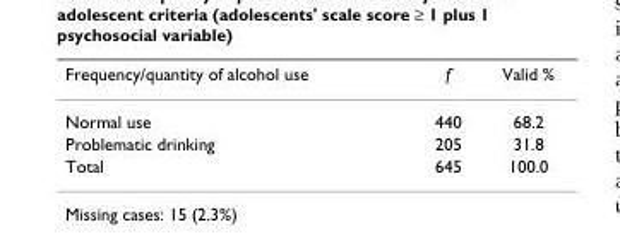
<table><thead><tr><td>Frequency/quantity of alcohol use</td><td>f</td><td>Valid %</td></tr></thead><tbody><tr><td>Normal use</td><td>440</td><td>68.2</td></tr><tr><td>Problematic drinking</td><td>205</td><td>31.8</td></tr><tr><td>Total</td><td>645</td><td>100.0</td></tr></tbody></table>